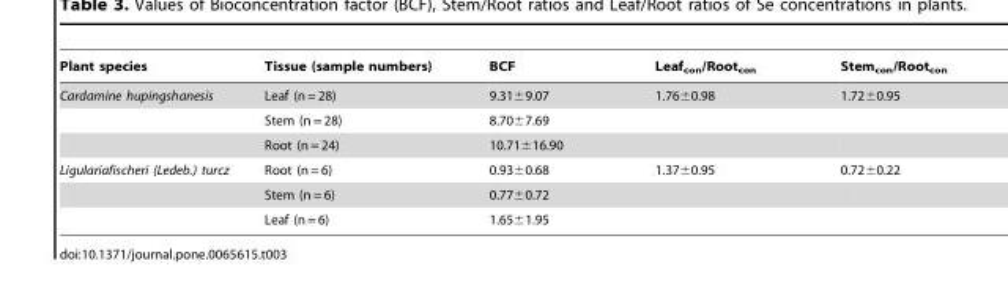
<table><thead><tr><td>Plant species</td><td>Tissue (sample numbers)</td><td>BCF</td><td>Leaf<sub>con</sub>/Root<sub>con</sub></td><td>Stem<sub>con</sub>/Root<sub>con</sub></td></tr></thead><tbody><tr><td rowspan="3">Cardamine hupingshanesis</td><td>Leaf (n = 28)</td><td>9.31±9.07</td><td>1.76±0.98</td><td>1.72±0.95</td></tr><tr><td>Stem (n = 28)</td><td>8.70±7.69</td><td></td><td></td></tr><tr><td>Root (n = 24)</td><td>10.71±16.90</td><td></td><td></td></tr><tr><td rowspan="3">Ligulariafischeri (Ledeb.) turcz</td><td>Root (n = 6)</td><td>0.93±0.68</td><td>1.37±0.95</td><td>0.72±0.22</td></tr><tr><td>Stem (n = 6)</td><td>0.77±0.72</td><td></td><td></td></tr><tr><td>Leaf (n = 6)</td><td>1.65±1.95</td><td></td><td></td></tr></tbody></table>